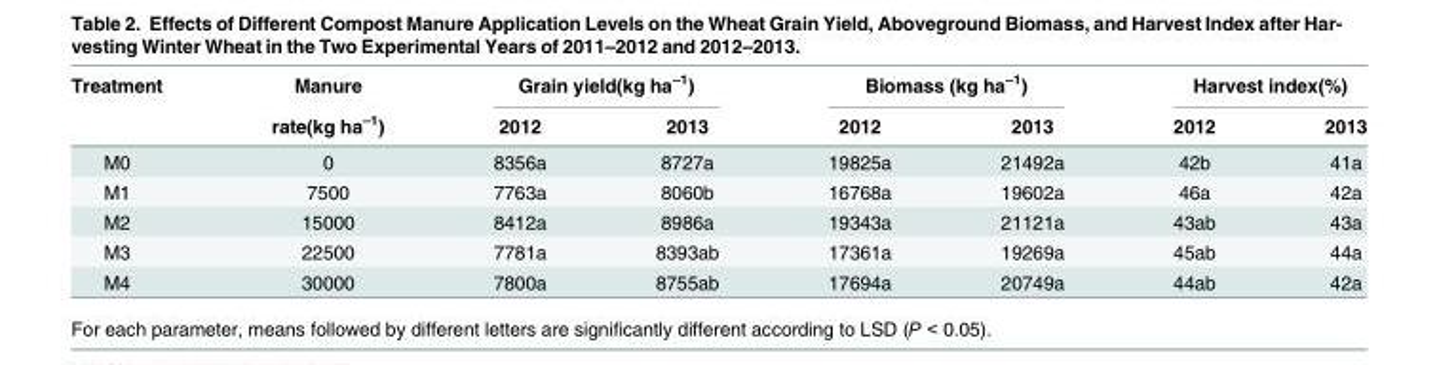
<table><thead><tr><td rowspan="2">Treatment</td><td rowspan="2">Manure rate(kg ha<sup>–1</sup>)</td><td colspan="2">Grain yield(kg ha<sup>–1</sup>)</td><td colspan="2">Biomass (kg ha<sup>–1</sup>)</td><td colspan="2">Harvest index(%)</td></tr><tr><td>2012</td><td>2013</td><td>2012</td><td>2013</td><td>2012</td><td>2013</td></tr></thead><tbody><tr><td>M0</td><td>0</td><td>8356a</td><td>8727a</td><td>19825a</td><td>21492a</td><td>42b</td><td>41a</td></tr><tr><td>M1</td><td>7500</td><td>7763a</td><td>8060b</td><td>16768a</td><td>19602a</td><td>46a</td><td>42a</td></tr><tr><td>M2</td><td>15000</td><td>8412a</td><td>8986a</td><td>19343a</td><td>21121a</td><td>43ab</td><td>43a</td></tr><tr><td>M3</td><td>22500</td><td>7781a</td><td>8393ab</td><td>17361a</td><td>19269a</td><td>45ab</td><td>44a</td></tr><tr><td>M4</td><td>30000</td><td>7800a</td><td>8755ab</td><td>17694a</td><td>20749a</td><td>44ab</td><td>42a</td></tr></tbody></table>